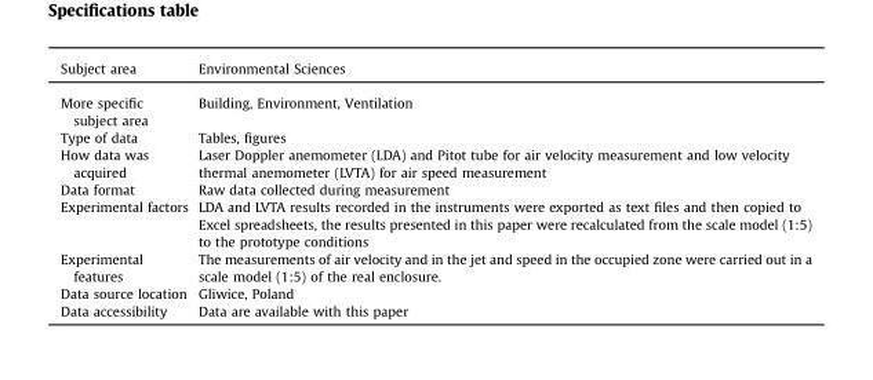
<table><tbody><tr><td>Subject area</td><td>Environmental Sciences</td></tr><tr><td>More specific subject area</td><td>Building, Environment, Ventilation</td></tr><tr><td>Type of data</td><td>Tables, figures</td></tr><tr><td>How data was acquired</td><td>Laser Doppler anemometer (LDA) and Pitot tube for air velocity measurement and low velocity thermal anemometer (LVTA) for air speed measurement</td></tr><tr><td>Data format</td><td>Raw data collected during measurement</td></tr><tr><td>Experimental factors</td><td>LDA and LVTA results recorded in the instruments were exported as text files and then copied to Excel spreadsheets, the results presented in this paper were recalculated from the scale model (1:5) to the prototype conditions</td></tr><tr><td>Experimental features</td><td>The measurements of air velocity and in the jet and speed in the occupied zone were carried out in a scale model (1:5) of the real enclosure.</td></tr><tr><td>Data source location</td><td>Gliwice, Poland</td></tr><tr><td>Data accessibility</td><td>Data are available with this paper</td></tr></tbody></table>